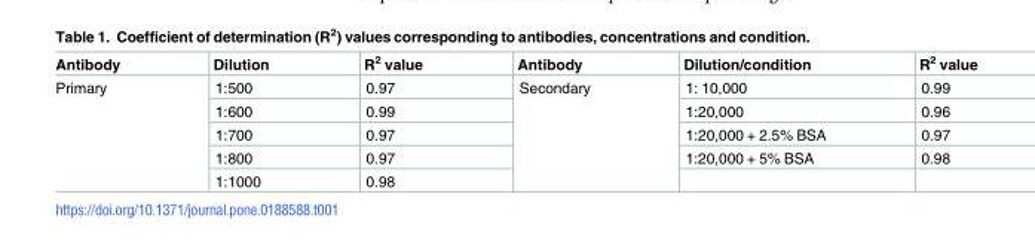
<table><thead><tr><td>Antibody</td><td>Dilution</td><td>R<sup>2</sup> value</td><td>Antibody</td><td>Dilution/condition</td><td>R<sup>2</sup> value</td></tr></thead><tbody><tr><td rowspan="5">Primary</td><td>1:500</td><td>0.97</td><td rowspan="5">Secondary</td><td>1: 10,000</td><td>0.99</td></tr><tr><td>1:600</td><td>0.99</td><td>1:20,000</td><td>0.96</td></tr><tr><td>1:700</td><td>0.97</td><td>1:20,000 + 2.5% BSA</td><td>0.97</td></tr><tr><td>1:800</td><td>0.97</td><td>1:20,000 + 5% BSA</td><td>0.98</td></tr><tr><td>1:1000</td><td>0.98</td><td></td><td></td></tr></tbody></table>